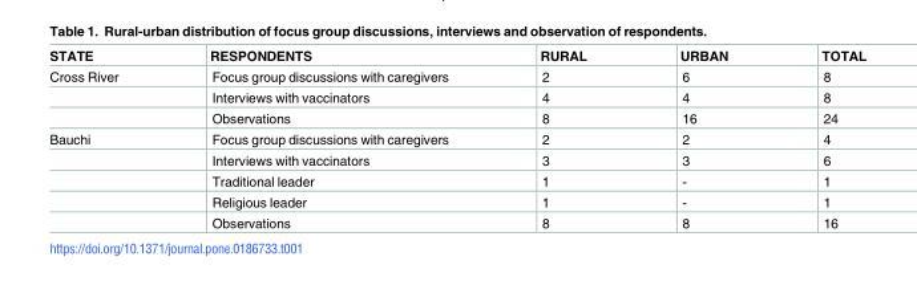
<table><thead><tr><td>STATE</td><td>RESPONDENTS</td><td>RURAL</td><td>URBAN</td><td>TOTAL</td></tr></thead><tbody><tr><td rowspan="3">Cross River</td><td>Focus group discussions with caregivers</td><td>2</td><td>6</td><td>8</td></tr><tr><td>Interviews with vaccinators</td><td>4</td><td>4</td><td>8</td></tr><tr><td>Observations</td><td>8</td><td>16</td><td>24</td></tr><tr><td rowspan="5">Bauchi</td><td>Focus group discussions with caregivers</td><td>2</td><td>2</td><td>4</td></tr><tr><td>Interviews with vaccinators</td><td>3</td><td>3</td><td>6</td></tr><tr><td>Traditional leader</td><td>1</td><td>-</td><td>1</td></tr><tr><td>Religious leader</td><td>1</td><td>-</td><td>1</td></tr><tr><td>Observations</td><td>8</td><td>8</td><td>16</td></tr></tbody></table>